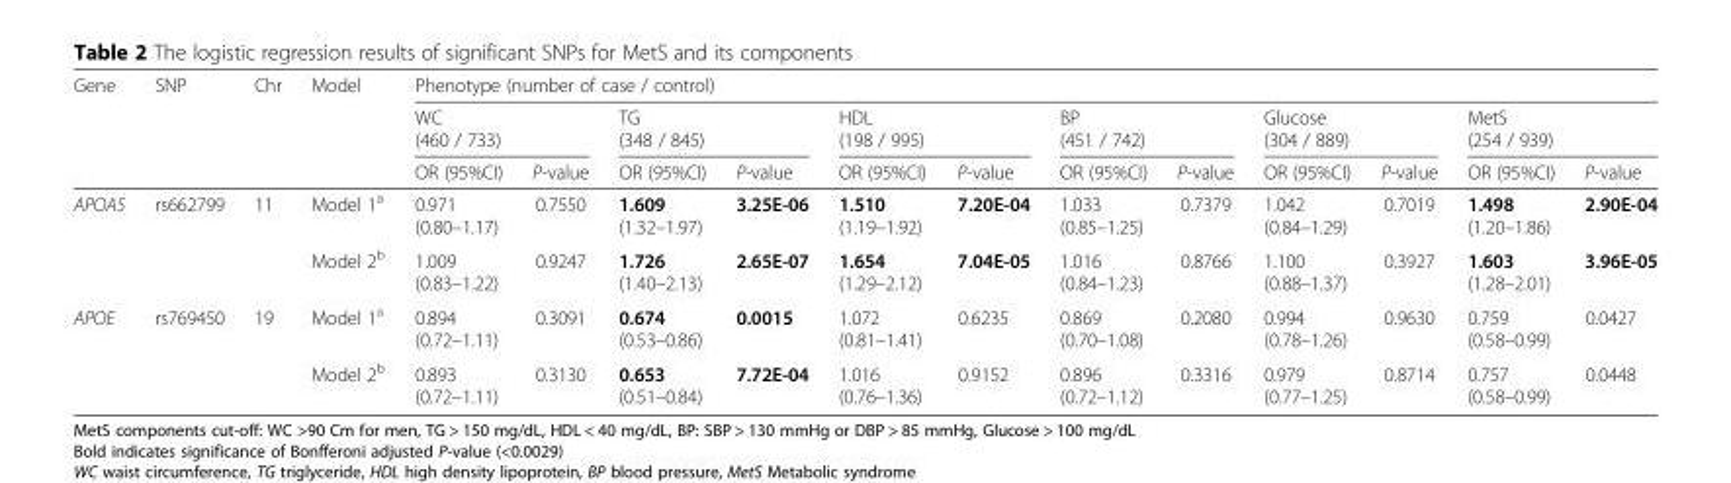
<table><thead><tr><td rowspan="3">Gene</td><td rowspan="3">SNP</td><td rowspan="3">Chr</td><td rowspan="3">Model</td><td colspan="12">Phenotype (number of case / control)</td></tr><tr><td colspan="2">WC (460 / 733)</td><td colspan="2">TG (348 / 845)</td><td colspan="2">HDL (198 / 995)</td><td colspan="2">BP (451 / 742)</td><td colspan="2">Glucose (304 / 889)</td><td colspan="2">MetS (254 / 939)</td></tr><tr><td>OR (95%CI)</td><td>P-value</td><td>OR (95%CI)</td><td>P-value</td><td>OR (95%CI)</td><td>P-value</td><td>OR (95%CI)</td><td>P-value</td><td>OR (95%CI)</td><td>P-value</td><td>OR (95%CI)</td><td>P-value</td></tr></thead><tbody><tr><td rowspan="2">APOA5</td><td rowspan="2">rs662799</td><td rowspan="2">11</td><td>Model 1<sup>a</sup></td><td>0.971 (0.80–1.17)</td><td>0.7550</td><td>1.609 (1.32–1.97)</td><td>3.25E-06</td><td>1.510 (1.19–1.92)</td><td>7.20E-04</td><td>1.033 (0.85–1.25)</td><td>0.7379</td><td>1.042 (0.84–1.29)</td><td>0.7019</td><td>1.498 (1.20–1.86)</td><td>2.90E-04</td></tr><tr><td>Model 2<sup>b</sup></td><td>1.009 (0.83–1.22)</td><td>0.9247</td><td>1.726 (1.40–2.13)</td><td>2.65E-07</td><td>1.654 (1.29–2.12)</td><td>7.04E-05</td><td>1.016 (0.84–1.23)</td><td>0.8766</td><td>1.100 (0.88–1.37)</td><td>0.3927</td><td>1.603 (1.28–2.01)</td><td>3.96E-05</td></tr><tr><td rowspan="2">APOE</td><td rowspan="2">rs769450</td><td rowspan="2">19</td><td>Model 1<sup>a</sup></td><td>0.894 (0.72–1.11)</td><td>0.3091</td><td>0.674 (0.53–0.86)</td><td>0.0015</td><td>1.072 (0.81–1.41)</td><td>0.6235</td><td>0.869 (0.70–1.08)</td><td>0.2080</td><td>0.994 (0.78–1.26)</td><td>0.9630</td><td>0.759 (0.58–0.99)</td><td>0.0427</td></tr><tr><td>Model 2<sup>b</sup></td><td>0.893 (0.72–1.11)</td><td>0.3130</td><td>0.653 (0.51–0.84)</td><td>7.72E-04</td><td>1.016 (0.76–1.36)</td><td>0.9152</td><td>0.896 (0.72–1.12)</td><td>0.3316</td><td>0.979 (0.77–1.25)</td><td>0.8714</td><td>0.757 (0.58–0.99)</td><td>0.0448</td></tr></tbody></table>